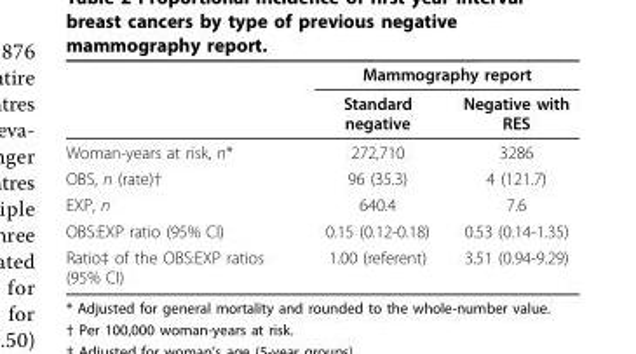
<table><thead><tr><td rowspan="2"></td><td colspan="2">Mammography report</td></tr><tr><td>Standard negative</td><td>Negative with RES</td></tr></thead><tbody><tr><td>Woman-years at risk, n*</td><td>272,710</td><td>3286</td></tr><tr><td>OBS, n (rate)†</td><td>96 (35.3)</td><td>4 (121.7)</td></tr><tr><td>EXP, n</td><td>640.4</td><td>7.6</td></tr><tr><td>OBS:EXP ratio (95% CI)</td><td>0.15 (0.12-0.18)</td><td>0.53 (0.14-1.35)</td></tr><tr><td>Ratio‡ of the OBS:EXP ratios (95% CI)</td><td>1.00 (referent)</td><td>3.51 (0.94-9.29)</td></tr></tbody></table>